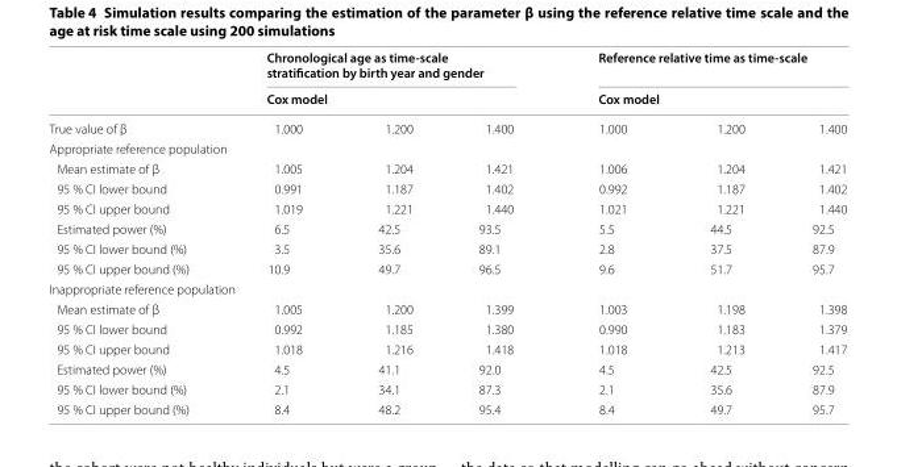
<table><thead><tr><td rowspan="3">True value of β</td><td rowspan="2" colspan="3">Chronological age as time‑scale stratification by birth year and gender Cox model</td><td rowspan="2" colspan="3">Reference relative time as time‑scale Cox model</td></tr><tr></tr><tr><td>1.000</td><td>1.200</td><td>1.400</td><td>1.000</td><td>1.200</td><td>1.400</td></tr></thead><tbody><tr><td colspan="7">Appropriate reference population</td></tr><tr><td>Mean estimate of β</td><td>1.005</td><td>1.204</td><td>1.421</td><td>1.006</td><td>1.204</td><td>1.421</td></tr><tr><td>95 % CI lower bound</td><td>0.991</td><td>1.187</td><td>1.402</td><td>0.992</td><td>1.187</td><td>1.402</td></tr><tr><td>95 % CI upper bound</td><td>1.019</td><td>1.221</td><td>1.440</td><td>1.021</td><td>1.221</td><td>1.440</td></tr><tr><td>Estimated power (%)</td><td>6.5</td><td>42.5</td><td>93.5</td><td>5.5</td><td>44.5</td><td>92.5</td></tr><tr><td>95 % CI lower bound (%)</td><td>3.5</td><td>35.6</td><td>89.1</td><td>2.8</td><td>37.5</td><td>87.9</td></tr><tr><td>95 % CI upper bound (%)</td><td>10.9</td><td>49.7</td><td>96.5</td><td>9.6</td><td>51.7</td><td>95.7</td></tr><tr><td colspan="7">Inappropriate reference population</td></tr><tr><td>Mean estimate of β</td><td>1.005</td><td>1.200</td><td>1.399</td><td>1.003</td><td>1.198</td><td>1.398</td></tr><tr><td>95 % CI lower bound</td><td>0.992</td><td>1.185</td><td>1.380</td><td>0.990</td><td>1.183</td><td>1.379</td></tr><tr><td>95 % CI upper bound</td><td>1.018</td><td>1.216</td><td>1.418</td><td>1.018</td><td>1.213</td><td>1.417</td></tr><tr><td>Estimated power (%)</td><td>4.5</td><td>41.1</td><td>92.0</td><td>4.5</td><td>42.5</td><td>92.5</td></tr><tr><td>95 % CI lower bound (%)</td><td>2.1</td><td>34.1</td><td>87.3</td><td>2.1</td><td>35.6</td><td>87.9</td></tr><tr><td>95 % CI upper bound (%)</td><td>8.4</td><td>48.2</td><td>95.4</td><td>8.4</td><td>49.7</td><td>95.7</td></tr></tbody></table>